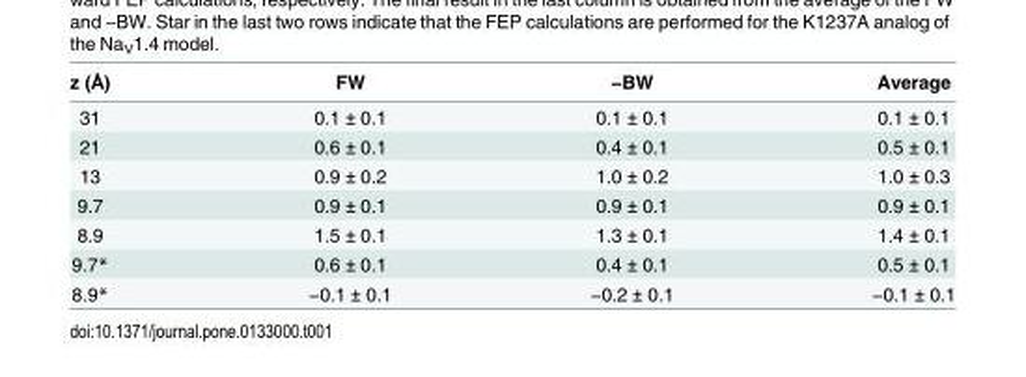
<table><thead><tr><td>z (Å)</td><td>FW</td><td>−BW</td><td>Average</td></tr></thead><tbody><tr><td>31</td><td>0.1 ± 0.1</td><td>0.1 ± 0.1</td><td>0.1 ± 0.1</td></tr><tr><td>21</td><td>0.6 ± 0.1</td><td>0.4 ± 0.1</td><td>0.5 ± 0.1</td></tr><tr><td>13</td><td>0.9 ± 0.2</td><td>1.0 ± 0.2</td><td>1.0 ± 0.3</td></tr><tr><td>9.7</td><td>0.9 ± 0.1</td><td>0.9 ± 0.1</td><td>0.9 ± 0.1</td></tr><tr><td>8.9</td><td>1.5 ± 0.1</td><td>1.3 ± 0.1</td><td>1.4 ± 0.1</td></tr><tr><td>9.7*</td><td>0.6 ± 0.1</td><td>0.4 ± 0.1</td><td>0.5 ± 0.1</td></tr><tr><td>8.9*</td><td>−0.1 ± 0.1</td><td>−0.2 ± 0.1</td><td>−0.1 ± 0.1</td></tr></tbody></table>